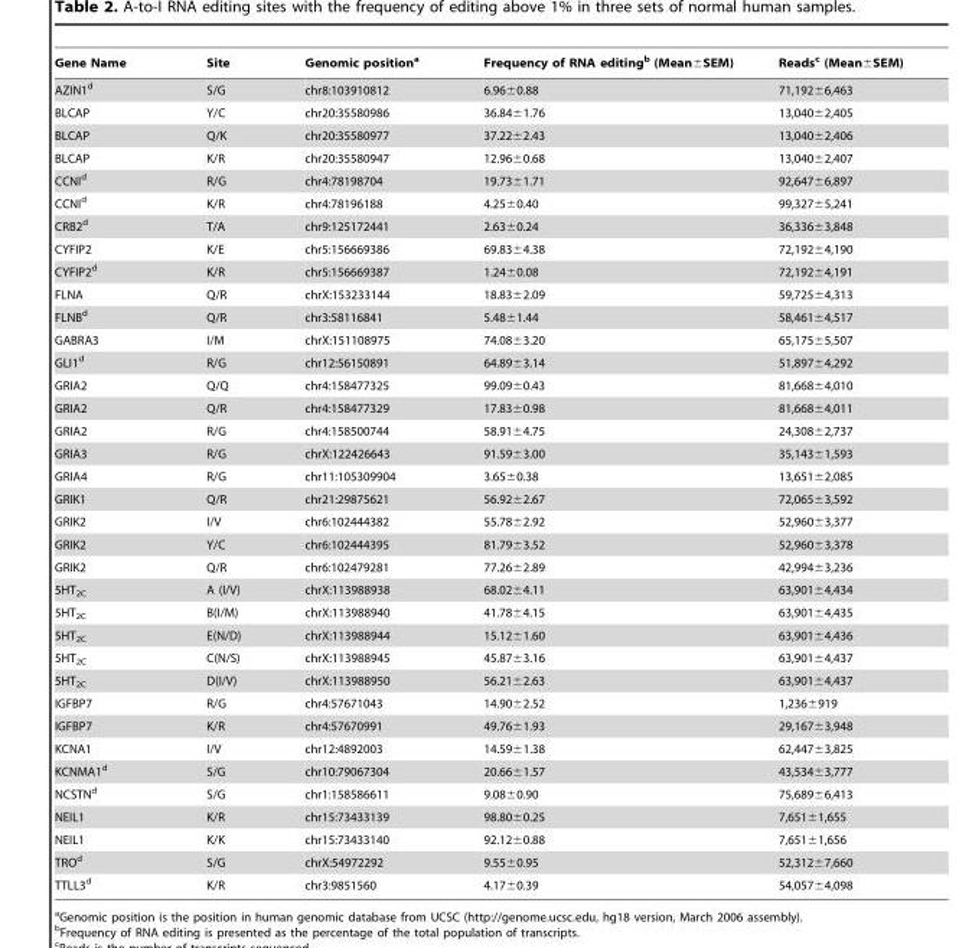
<table><thead><tr><td>Gene Name</td><td>Site</td><td>Genomic position<sup>a</sup></td><td>Frequency of RNA editing<sup>b</sup> (Mean±SEM)</td><td>Reads<sup>c</sup> (Mean±SEM)</td></tr></thead><tbody><tr><td>AZIN1<sup>d</sup></td><td>S/G</td><td>chr8:103910812</td><td>6.96±0.88</td><td>71,192±6,463</td></tr><tr><td>BLCAP</td><td>Y/C</td><td>chr20:35580986</td><td>36.84±1.76</td><td>13,040±2,405</td></tr><tr><td>BLCAP</td><td>Q/K</td><td>chr20:35580977</td><td>37.22±2.43</td><td>13,040±2,406</td></tr><tr><td>BLCAP</td><td>K/R</td><td>chr20:35580947</td><td>12.96±0.68</td><td>13,040±2,407</td></tr><tr><td>CCNI<sup>d</sup></td><td>R/G</td><td>chr4:78198704</td><td>19.73±1.71</td><td>92,647±6,897</td></tr><tr><td>CCNI<sup>d</sup></td><td>K/R</td><td>chr4:78196188</td><td>4.25±0.40</td><td>99,327±5,241</td></tr><tr><td>CRB2<sup>d</sup></td><td>T/A</td><td>chr9:125172441</td><td>2.63±0.24</td><td>36,336±3,848</td></tr><tr><td>CYFIP2</td><td>K/E</td><td>chr5:156669386</td><td>69.83±4.38</td><td>72,192±4,190</td></tr><tr><td>CYFIP2<sup>d</sup></td><td>K/R</td><td>chr5:156669387</td><td>1.24±0.08</td><td>72,192±4,191</td></tr><tr><td>FLNA</td><td>Q/R</td><td>chrX:153233144</td><td>18.83±2.09</td><td>59,725±4,313</td></tr><tr><td>FLNB<sup>d</sup></td><td>Q/R</td><td>chr3:58116841</td><td>5.48±1.44</td><td>58,461±4,517</td></tr><tr><td>GABRA3</td><td>I/M</td><td>chrX:151108975</td><td>74.08±3.20</td><td>65,175±5,507</td></tr><tr><td>GLI1<sup>d</sup></td><td>R/G</td><td>chr12:56150891</td><td>64.89±3.14</td><td>51,897±4,292</td></tr><tr><td>GRIA2</td><td>Q/Q</td><td>chr4:158477325</td><td>99.09±0.43</td><td>81,668±4,010</td></tr><tr><td>GRIA2</td><td>Q/R</td><td>chr4:158477329</td><td>17.83±0.98</td><td>81,668±4,011</td></tr><tr><td>GRIA2</td><td>R/G</td><td>chr4:158500744</td><td>58.91±4.75</td><td>24,308±2,737</td></tr><tr><td>GRIA3</td><td>R/G</td><td>chrX:122426643</td><td>91.59±3.00</td><td>35,143±1,593</td></tr><tr><td>GRIA4</td><td>R/G</td><td>chr11:105309904</td><td>3.65±0.38</td><td>13,651±2,085</td></tr><tr><td>GRIK1</td><td>Q/R</td><td>chr21:29875621</td><td>56.92±2.67</td><td>72,065±3,592</td></tr><tr><td>GRIK2</td><td>I/V</td><td>chr6:102444382</td><td>55.78±2.92</td><td>52,960±3,377</td></tr><tr><td>GRIK2</td><td>Y/C</td><td>chr6:102444395</td><td>81.79±3.52</td><td>52,960±3,378</td></tr><tr><td>GRIK2</td><td>Q/R</td><td>chr6:102479281</td><td>77.26±2.89</td><td>42,994±3,236</td></tr><tr><td>5HT<sub>2C</sub></td><td>A (I/V)</td><td>chrX:113988938</td><td>68.02±4.11</td><td>63,901±4,434</td></tr><tr><td>5HT<sub>2C</sub></td><td>B(I/M)</td><td>chrX:113988940</td><td>41.78±4.15</td><td>63,901±4,435</td></tr><tr><td>5HT<sub>2C</sub></td><td>E(N/D)</td><td>chrX:113988944</td><td>15.12±1.60</td><td>63,901±4,436</td></tr><tr><td>5HT<sub>2C</sub></td><td>C(N/S)</td><td>chrX:113988945</td><td>45.87±3.16</td><td>63,901±4,437</td></tr><tr><td>5HT<sub>2C</sub></td><td>D(I/V)</td><td>chrX:113988950</td><td>56.21±2.63</td><td>63,901±4,437</td></tr><tr><td>IGFBP7</td><td>R/G</td><td>chr4:57671043</td><td>14.90±2.52</td><td>1,236±919</td></tr><tr><td>IGFBP7</td><td>K/R</td><td>chr4:57670991</td><td>49.76±1.93</td><td>29,167±3,948</td></tr><tr><td>KCNA1</td><td>I/V</td><td>chr12:4892003</td><td>14.59±1.38</td><td>62,447±3,825</td></tr><tr><td>KCNMA1<sup>d</sup></td><td>S/G</td><td>chr10:79067304</td><td>20.66±1.57</td><td>43,534±3,777</td></tr><tr><td>NCSTN<sup>d</sup></td><td>S/G</td><td>chr1:158586611</td><td>9.08±0.90</td><td>75,689±6,413</td></tr><tr><td>NEIL1</td><td>K/R</td><td>chr15:73433139</td><td>98.80±0.25</td><td>7,651±1,655</td></tr><tr><td>NEIL1</td><td>K/K</td><td>chr15:73433140</td><td>92.12±0.88</td><td>7,651±1,656</td></tr><tr><td>TRO<sup>d</sup></td><td>S/G</td><td>chrX:54972292</td><td>9.55±0.95</td><td>52,312±7,660</td></tr><tr><td>TTLL3<sup>d</sup></td><td>K/R</td><td>chr3:9851560</td><td>4.17±0.39</td><td>54,057±4,098</td></tr></tbody></table>